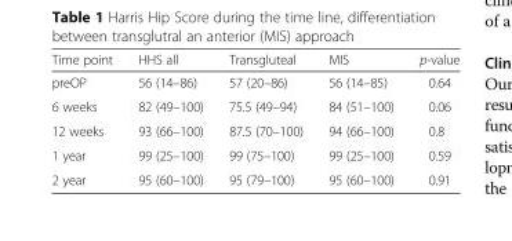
<table><thead><tr><td>Time point</td><td>HHS all</td><td>Transgluteal</td><td>MIS</td><td>p-value</td></tr></thead><tbody><tr><td>preOP</td><td>56 (14–86)</td><td>57 (20–86)</td><td>56 (14–85)</td><td>0.64</td></tr><tr><td>6 weeks</td><td>82 (49–100)</td><td>75.5 (49–94)</td><td>84 (51–100)</td><td>0.06</td></tr><tr><td>12 weeks</td><td>93 (66–100)</td><td>87.5 (70–100)</td><td>94 (66–100)</td><td>0.8</td></tr><tr><td>1 year</td><td>99 (25–100)</td><td>99 (75–100)</td><td>99 (25–100)</td><td>0.59</td></tr><tr><td>2 year</td><td>95 (60–100)</td><td>95 (79–100)</td><td>95 (60–100)</td><td>0.91</td></tr></tbody></table>